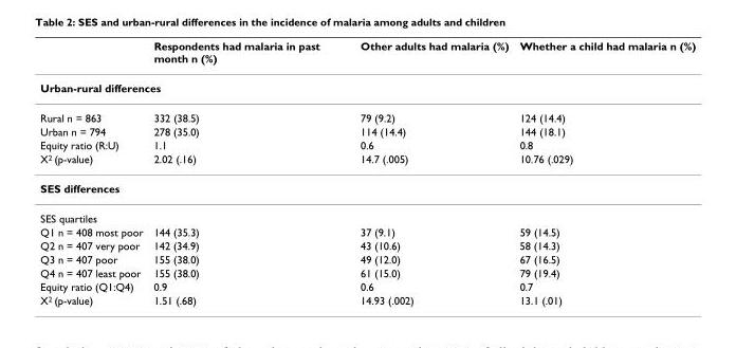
<table><thead><tr><td></td><td>Respondents had malaria in past month n (%)</td><td>Other adults had malaria (%)</td><td>Whether a child had malaria n (%)</td></tr></thead><tbody><tr><td colspan="4">Urban-rural differences</td></tr><tr><td>Rural n = 863</td><td>332 (38.5)</td><td>79 (9.2)</td><td>124 (14.4)</td></tr><tr><td>Urban n = 794</td><td>278 (35.0)</td><td>114 (14.4)</td><td>144 (18.1)</td></tr><tr><td>Equity ratio (R:U)</td><td>1.1</td><td>0.6</td><td>0.8</td></tr><tr><td>X<sup>2</sup> (p-value)</td><td>2.02 (.16)</td><td>14.7 (.005)</td><td>10.76 (.029)</td></tr><tr><td colspan="4">SES differences</td></tr><tr><td colspan="4">SES quartiles</td></tr><tr><td>Q1 n = 408 most poor</td><td>144 (35.3)</td><td>37 (9.1)</td><td>59 (14.5)</td></tr><tr><td>Q2 n = 407 very poor</td><td>142 (34.9)</td><td>43 (10.6)</td><td>58 (14.3)</td></tr><tr><td>Q3 n = 407 poor</td><td>155 (38.0)</td><td>49 (12.0)</td><td>67 (16.5)</td></tr><tr><td>Q4 n = 407 least poor</td><td>155 (38.0)</td><td>61 (15.0)</td><td>79 (19.4)</td></tr><tr><td>Equity ratio (Q1:Q4)</td><td>0.9</td><td>0.6</td><td>0.7</td></tr><tr><td>X<sup>2</sup> (p-value)</td><td>1.51 (.68)</td><td>14.93 (.002)</td><td>13.1 (.01)</td></tr></tbody></table>